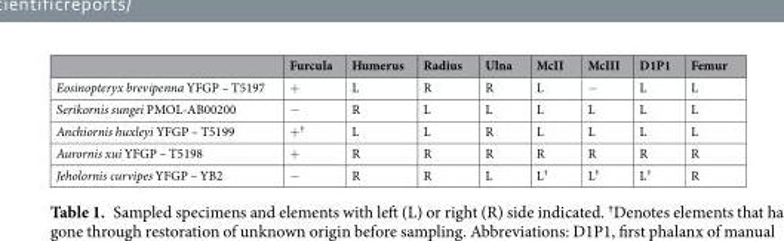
<table><thead><tr><td></td><td>Furcula</td><td>Humerus</td><td>Radius</td><td>Ulna</td><td>McII</td><td>McIII</td><td>D1P1</td><td>Femur</td></tr></thead><tbody><tr><td>Eosinopteryx brevipenna YFGP – T5197</td><td>+</td><td>L</td><td>R</td><td>R</td><td>L</td><td>−</td><td>L</td><td>L</td></tr><tr><td>Serikornis sungei PMOL-AB00200</td><td>−</td><td>R</td><td>L</td><td>L</td><td>L</td><td>L</td><td>L</td><td>L</td></tr><tr><td>Anchiornis huxleyi YFGP – T5199</td><td>+<sup>†</sup></td><td>L</td><td>L</td><td>R</td><td>L</td><td>L</td><td>L</td><td>L</td></tr><tr><td>Aurornis xui YFGP – T5198</td><td>+</td><td>R</td><td>R</td><td>R</td><td>R</td><td>R</td><td>R</td><td>R</td></tr><tr><td>Jeholornis curvipes YFGP – YB2</td><td>−</td><td>R</td><td>R</td><td>L</td><td>L<sup>†</sup></td><td>L<sup>†</sup></td><td>L<sup>†</sup></td><td>R</td></tr></tbody></table>